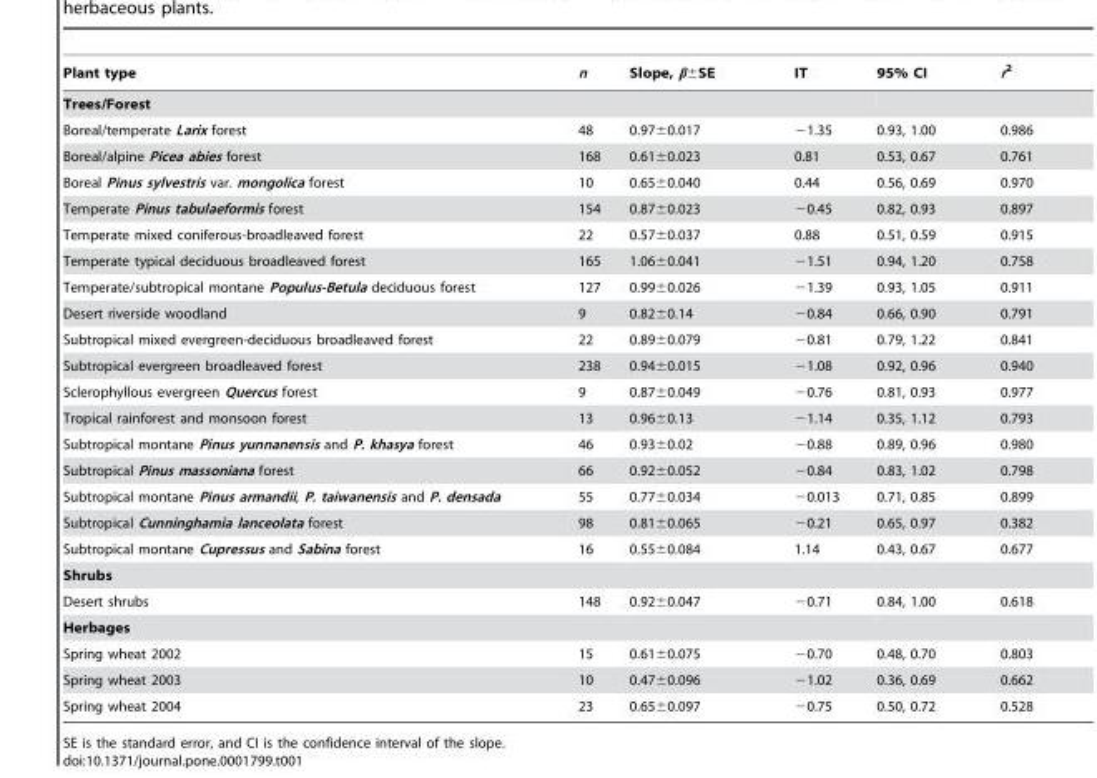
<table><thead><tr><td>Plant type</td><td>n</td><td>Slope, β±SE</td><td>IT</td><td>95% CI</td><td>r<sup>2</sup></td></tr></thead><tbody><tr><td colspan="6">Trees/Forest</td></tr><tr><td>Boreal/temperate Larix forest</td><td>48</td><td>0.97±0.017</td><td>−1.35</td><td>0.93, 1.00</td><td>0.986</td></tr><tr><td>Boreal/alpine Picea abies forest</td><td>168</td><td>0.61±0.023</td><td>0.81</td><td>0.53, 0.67</td><td>0.761</td></tr><tr><td>Boreal Pinus sylvestris var. mongolica forest</td><td>10</td><td>0.65±0.040</td><td>0.44</td><td>0.56, 0.69</td><td>0.970</td></tr><tr><td>Temperate Pinus tabulaeformis forest</td><td>154</td><td>0.87±0.023</td><td>−0.45</td><td>0.82, 0.93</td><td>0.897</td></tr><tr><td>Temperate mixed coniferous-broadleaved forest</td><td>22</td><td>0.57±0.037</td><td>0.88</td><td>0.51, 0.59</td><td>0.915</td></tr><tr><td>Temperate typical deciduous broadleaved forest</td><td>165</td><td>1.06±0.041</td><td>−1.51</td><td>0.94, 1.20</td><td>0.758</td></tr><tr><td>Temperate/subtropical montane Populus-Betula deciduous forest</td><td>127</td><td>0.99±0.026</td><td>−1.39</td><td>0.93, 1.05</td><td>0.911</td></tr><tr><td>Desert riverside woodland</td><td>9</td><td>0.82±0.14</td><td>−0.84</td><td>0.66, 0.90</td><td>0.791</td></tr><tr><td>Subtropical mixed evergreen-deciduous broadleaved forest</td><td>22</td><td>0.89±0.079</td><td>−0.81</td><td>0.79, 1.22</td><td>0.841</td></tr><tr><td>Subtropical evergreen broadleaved forest</td><td>238</td><td>0.94±0.015</td><td>−1.08</td><td>0.92, 0.96</td><td>0.940</td></tr><tr><td>Sclerophyllous evergreen Quercus forest</td><td>9</td><td>0.87±0.049</td><td>−0.76</td><td>0.81, 0.93</td><td>0.977</td></tr><tr><td>Tropical rainforest and monsoon forest</td><td>13</td><td>0.96±0.13</td><td>−1.14</td><td>0.35, 1.12</td><td>0.793</td></tr><tr><td>Subtropical montane Pinus yunnanensis and P. khasya forest</td><td>46</td><td>0.93±0.02</td><td>−0.88</td><td>0.89, 0.96</td><td>0.980</td></tr><tr><td>Subtropical Pinus massoniana forest</td><td>66</td><td>0.92±0.052</td><td>−0.84</td><td>0.83, 1.02</td><td>0.798</td></tr><tr><td>Subtropical montane Pinus armandii, P. taiwanensis and P. densada</td><td>55</td><td>0.77±0.034</td><td>−0.013</td><td>0.71, 0.85</td><td>0.899</td></tr><tr><td>Subtropical Cunninghamia lanceolata forest</td><td>98</td><td>0.81±0.065</td><td>−0.21</td><td>0.65, 0.97</td><td>0.382</td></tr><tr><td>Subtropical montane Cupressus and Sabina forest</td><td>16</td><td>0.55±0.084</td><td>1.14</td><td>0.43, 0.67</td><td>0.677</td></tr><tr><td colspan="6">Shrubs</td></tr><tr><td>Desert shrubs</td><td>148</td><td>0.92±0.047</td><td>−0.71</td><td>0.84, 1.00</td><td>0.618</td></tr><tr><td colspan="6">Herbages</td></tr><tr><td>Spring wheat 2002</td><td>15</td><td>0.61±0.075</td><td>−0.70</td><td>0.48, 0.70</td><td>0.803</td></tr><tr><td>Spring wheat 2003</td><td>10</td><td>0.47±0.096</td><td>−1.02</td><td>0.36, 0.69</td><td>0.662</td></tr><tr><td>Spring wheat 2004</td><td>23</td><td>0.65±0.097</td><td>−0.75</td><td>0.50, 0.72</td><td>0.528</td></tr></tbody></table>